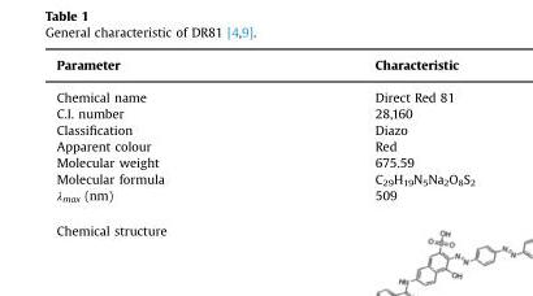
<table><thead><tr><td>Parameter</td><td>Characteristic</td></tr></thead><tbody><tr><td>Chemical name</td><td>Direct Red 81</td></tr><tr><td>C.I. number</td><td>28,160</td></tr><tr><td>Classification</td><td>Diazo</td></tr><tr><td>Apparent colour</td><td>Red</td></tr><tr><td>Molecular weight</td><td>675.59</td></tr><tr><td>Molecular formula</td><td>C<sub>29</sub>H<sub>19</sub>N<sub>5</sub>Na<sub>2</sub>O<sub>8</sub>S<sub>2</sub></td></tr><tr><td>λ<sub>max</sub> (nm)</td><td>509</td></tr><tr><td>Chemical structure</td><td></td></tr></tbody></table>